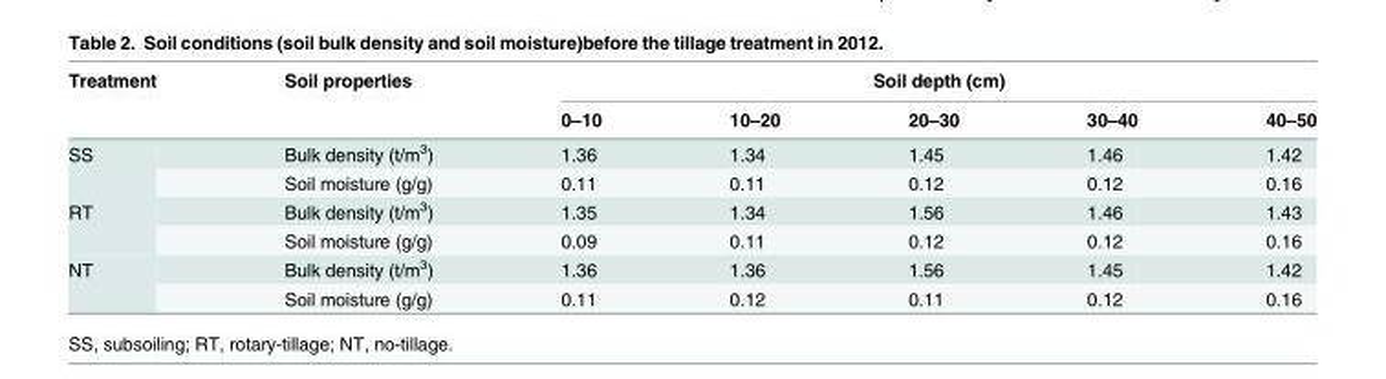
<table><thead><tr><td rowspan="2">Treatment</td><td rowspan="2">Soil properties</td><td colspan="5">Soil depth (cm)</td></tr><tr><td>0–10</td><td>10–20</td><td>20–30</td><td>30–40</td><td>40–50</td></tr></thead><tbody><tr><td rowspan="2">SS</td><td>Bulk density (t/m<sup>3</sup>)</td><td>1.36</td><td>1.34</td><td>1.45</td><td>1.46</td><td>1.42</td></tr><tr><td>Soil moisture (g/g)</td><td>0.11</td><td>0.11</td><td>0.12</td><td>0.12</td><td>0.16</td></tr><tr><td rowspan="2">RT</td><td>Bulk density (t/m<sup>3</sup>)</td><td>1.35</td><td>1.34</td><td>1.56</td><td>1.46</td><td>1.43</td></tr><tr><td>Soil moisture (g/g)</td><td>0.09</td><td>0.11</td><td>0.12</td><td>0.12</td><td>0.16</td></tr><tr><td rowspan="2">NT</td><td>Bulk density (t/m<sup>3</sup>)</td><td>1.36</td><td>1.36</td><td>1.56</td><td>1.45</td><td>1.42</td></tr><tr><td>Soil moisture (g/g)</td><td>0.11</td><td>0.12</td><td>0.11</td><td>0.12</td><td>0.16</td></tr></tbody></table>